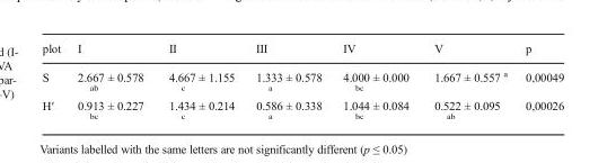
<table><thead><tr><td>plot</td><td>I</td><td>II</td><td>III</td><td>IV</td><td>V</td><td>p</td></tr></thead><tbody><tr><td>S</td><td>2.667 ± 0.578 <sup>ab</sup></td><td>4.667 ± 1.155 <sup>c</sup></td><td>1.333 ± 0.578 <sup>a</sup></td><td>4.000 ± 0.000 <sup>bc</sup></td><td>1.667 ± 0.557 <sup>a</sup></td><td>0,00049</td></tr><tr><td>H′</td><td>0.913 ± 0.227 <sup>bc</sup></td><td>1.434 ± 0.214 <sup>c</sup></td><td>0.586 ± 0.338 <sup>a</sup></td><td>1.044 ± 0.084 <sup>bc</sup></td><td>0.522 ± 0.095 <sup>ab</sup></td><td>0,00026</td></tr></tbody></table>